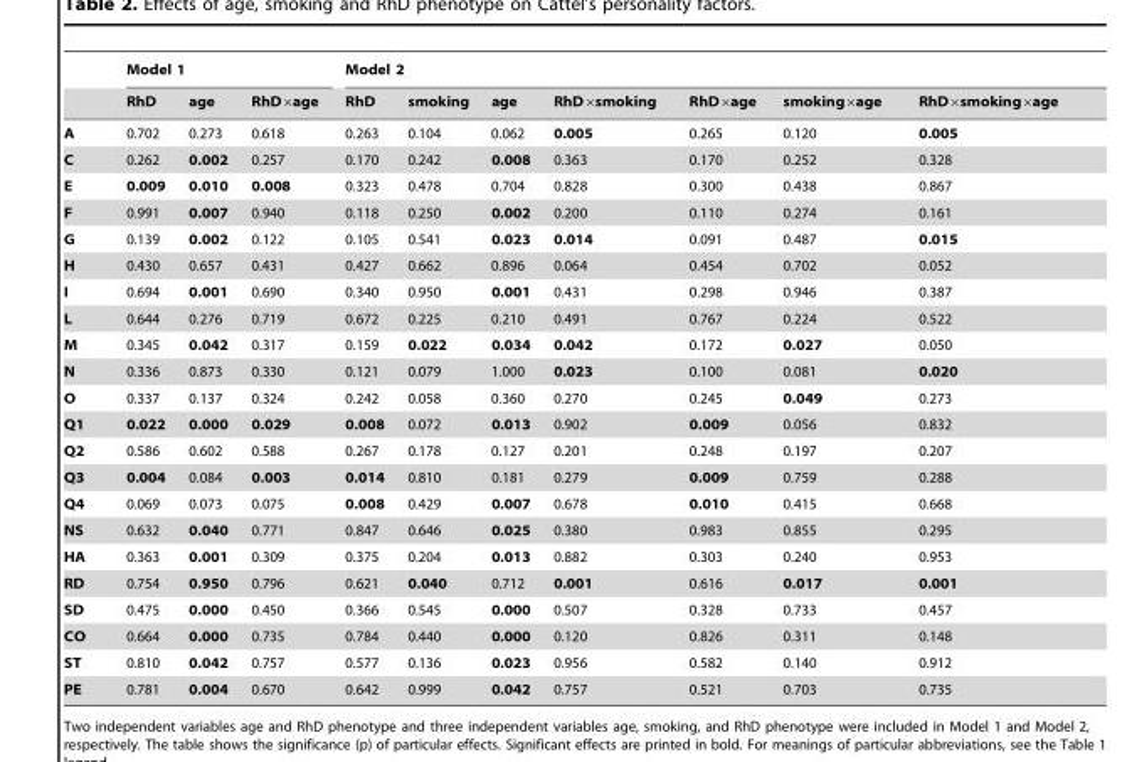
<table><thead><tr><td rowspan="2"></td><td colspan="3">Model 1</td><td colspan="7">Model 2</td></tr><tr><td>RhD</td><td>age</td><td>RhD×age</td><td>RhD</td><td>smoking</td><td>age</td><td>RhD×smoking</td><td>RhD×age</td><td>smoking×age</td><td>RhD×smoking×age</td></tr></thead><tbody><tr><td>A</td><td>0.702</td><td>0.273</td><td>0.618</td><td>0.263</td><td>0.104</td><td>0.062</td><td>0.005</td><td>0.265</td><td>0.120</td><td>0.005</td></tr><tr><td>C</td><td>0.262</td><td>0.002</td><td>0.257</td><td>0.170</td><td>0.242</td><td>0.008</td><td>0.363</td><td>0.170</td><td>0.252</td><td>0.328</td></tr><tr><td>E</td><td>0.009</td><td>0.010</td><td>0.008</td><td>0.323</td><td>0.478</td><td>0.704</td><td>0.828</td><td>0.300</td><td>0.438</td><td>0.867</td></tr><tr><td>F</td><td>0.991</td><td>0.007</td><td>0.940</td><td>0.118</td><td>0.250</td><td>0.002</td><td>0.200</td><td>0.110</td><td>0.274</td><td>0.161</td></tr><tr><td>G</td><td>0.139</td><td>0.002</td><td>0.122</td><td>0.105</td><td>0.541</td><td>0.023</td><td>0.014</td><td>0.091</td><td>0.487</td><td>0.015</td></tr><tr><td>H</td><td>0.430</td><td>0.657</td><td>0.431</td><td>0.427</td><td>0.662</td><td>0.896</td><td>0.064</td><td>0.454</td><td>0.702</td><td>0.052</td></tr><tr><td>I</td><td>0.694</td><td>0.001</td><td>0.690</td><td>0.340</td><td>0.950</td><td>0.001</td><td>0.431</td><td>0.298</td><td>0.946</td><td>0.387</td></tr><tr><td>L</td><td>0.644</td><td>0.276</td><td>0.719</td><td>0.672</td><td>0.225</td><td>0.210</td><td>0.491</td><td>0.767</td><td>0.224</td><td>0.522</td></tr><tr><td>M</td><td>0.345</td><td>0.042</td><td>0.317</td><td>0.159</td><td>0.022</td><td>0.034</td><td>0.042</td><td>0.172</td><td>0.027</td><td>0.050</td></tr><tr><td>N</td><td>0.336</td><td>0.873</td><td>0.330</td><td>0.121</td><td>0.079</td><td>1.000</td><td>0.023</td><td>0.100</td><td>0.081</td><td>0.020</td></tr><tr><td>O</td><td>0.337</td><td>0.137</td><td>0.324</td><td>0.242</td><td>0.058</td><td>0.360</td><td>0.270</td><td>0.245</td><td>0.049</td><td>0.273</td></tr><tr><td>Q1</td><td>0.022</td><td>0.000</td><td>0.029</td><td>0.008</td><td>0.072</td><td>0.013</td><td>0.902</td><td>0.009</td><td>0.056</td><td>0.832</td></tr><tr><td>Q2</td><td>0.586</td><td>0.602</td><td>0.588</td><td>0.267</td><td>0.178</td><td>0.127</td><td>0.201</td><td>0.248</td><td>0.197</td><td>0.207</td></tr><tr><td>Q3</td><td>0.004</td><td>0.084</td><td>0.003</td><td>0.014</td><td>0.810</td><td>0.181</td><td>0.279</td><td>0.009</td><td>0.759</td><td>0.288</td></tr><tr><td>Q4</td><td>0.069</td><td>0.073</td><td>0.075</td><td>0.008</td><td>0.429</td><td>0.007</td><td>0.678</td><td>0.010</td><td>0.415</td><td>0.668</td></tr><tr><td>NS</td><td>0.632</td><td>0.040</td><td>0.771</td><td>0.847</td><td>0.646</td><td>0.025</td><td>0.380</td><td>0.983</td><td>0.855</td><td>0.295</td></tr><tr><td>HA</td><td>0.363</td><td>0.001</td><td>0.309</td><td>0.375</td><td>0.204</td><td>0.013</td><td>0.882</td><td>0.303</td><td>0.240</td><td>0.953</td></tr><tr><td>RD</td><td>0.754</td><td>0.950</td><td>0.796</td><td>0.621</td><td>0.040</td><td>0.712</td><td>0.001</td><td>0.616</td><td>0.017</td><td>0.001</td></tr><tr><td>SD</td><td>0.475</td><td>0.000</td><td>0.450</td><td>0.366</td><td>0.545</td><td>0.000</td><td>0.507</td><td>0.328</td><td>0.733</td><td>0.457</td></tr><tr><td>CO</td><td>0.664</td><td>0.000</td><td>0.735</td><td>0.784</td><td>0.440</td><td>0.000</td><td>0.120</td><td>0.826</td><td>0.311</td><td>0.148</td></tr><tr><td>ST</td><td>0.810</td><td>0.042</td><td>0.757</td><td>0.577</td><td>0.136</td><td>0.023</td><td>0.956</td><td>0.582</td><td>0.140</td><td>0.912</td></tr><tr><td>PE</td><td>0.781</td><td>0.004</td><td>0.670</td><td>0.642</td><td>0.999</td><td>0.042</td><td>0.757</td><td>0.521</td><td>0.703</td><td>0.735</td></tr></tbody></table>